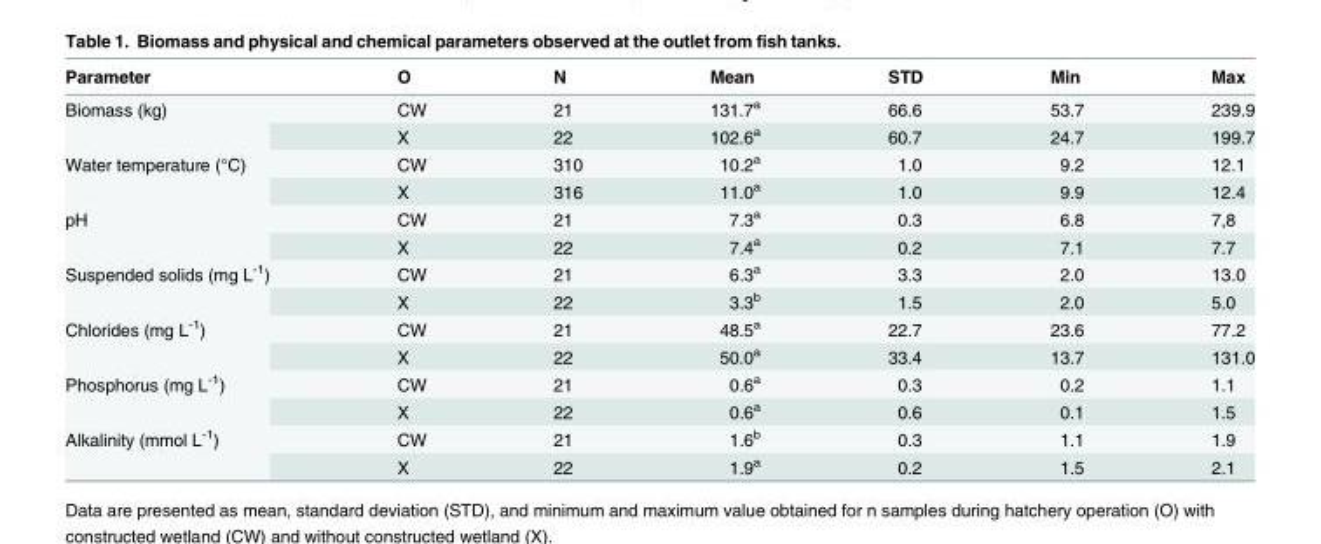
<table><thead><tr><td>Parameter</td><td>O</td><td>N</td><td>Mean</td><td>STD</td><td>Min</td><td>Max</td></tr></thead><tbody><tr><td rowspan="2">Biomass (kg)</td><td>CW</td><td>21</td><td>131.7<sup>a</sup></td><td>66.6</td><td>53.7</td><td>239.9</td></tr><tr><td>X</td><td>22</td><td>102.6<sup>a</sup></td><td>60.7</td><td>24.7</td><td>199.7</td></tr><tr><td rowspan="2">Water temperature (°C)</td><td>CW</td><td>310</td><td>10.2<sup>a</sup></td><td>1.0</td><td>9.2</td><td>12.1</td></tr><tr><td>X</td><td>316</td><td>11.0<sup>a</sup></td><td>1.0</td><td>9.9</td><td>12.4</td></tr><tr><td rowspan="2">pH</td><td>CW</td><td>21</td><td>7.3<sup>a</sup></td><td>0.3</td><td>6.8</td><td>7,8</td></tr><tr><td>X</td><td>22</td><td>7.4<sup>a</sup></td><td>0.2</td><td>7.1</td><td>7.7</td></tr><tr><td rowspan="2">Suspended solids (mg L<sup>-1</sup>)</td><td>CW</td><td>21</td><td>6.3<sup>a</sup></td><td>3.3</td><td>2.0</td><td>13.0</td></tr><tr><td>X</td><td>22</td><td>3.3<sup>b</sup></td><td>1.5</td><td>2.0</td><td>5.0</td></tr><tr><td rowspan="2">Chlorides (mg L<sup>-1</sup>)</td><td>CW</td><td>21</td><td>48.5<sup>a</sup></td><td>22.7</td><td>23.6</td><td>77.2</td></tr><tr><td>X</td><td>22</td><td>50.0<sup>a</sup></td><td>33.4</td><td>13.7</td><td>131.0</td></tr><tr><td rowspan="2">Phosphorus (mg L<sup>-1</sup>)</td><td>CW</td><td>21</td><td>0.6<sup>a</sup></td><td>0.3</td><td>0.2</td><td>1.1</td></tr><tr><td>X</td><td>22</td><td>0.6<sup>a</sup></td><td>0.6</td><td>0.1</td><td>1.5</td></tr><tr><td rowspan="2">Alkalinity (mmol L<sup>-1</sup>)</td><td>CW</td><td>21</td><td>1.6<sup>b</sup></td><td>0.3</td><td>1.1</td><td>1.9</td></tr><tr><td>X</td><td>22</td><td>1.9<sup>a</sup></td><td>0.2</td><td>1.5</td><td>2.1</td></tr></tbody></table>